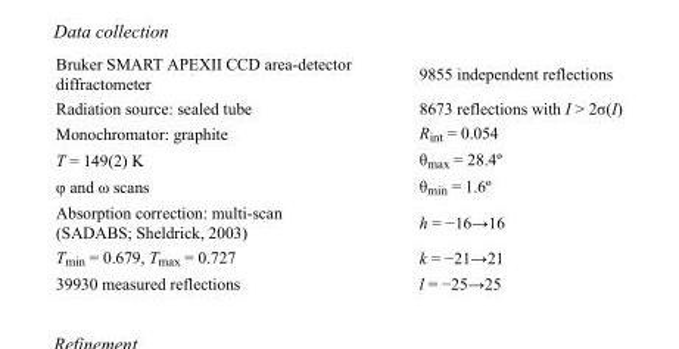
<table><tbody><tr><td>Bruker SMART APEXII CCD area-detector diffractometer</td><td>9855 independent reflections</td></tr><tr><td>Radiation source: sealed tube</td><td>8673 reflections with I &gt; 2σ(I)</td></tr><tr><td>Monochromator: graphite</td><td>R<sub>int</sub> = 0.054</td></tr><tr><td>T = 149(2) K</td><td>θ<sub>max</sub> = 28.4º</td></tr><tr><td>φ and ω scans</td><td>θ<sub>min</sub> = 1.6º</td></tr><tr><td>Absorption correction: multi-scan (SADABS; Sheldrick, 2003)</td><td>h = −16→16</td></tr><tr><td>T<sub>min</sub> = 0.679, T<sub>max</sub> = 0.727</td><td>k = −21→21</td></tr><tr><td>39930 measured reflections</td><td>l = −25→25</td></tr></tbody></table>